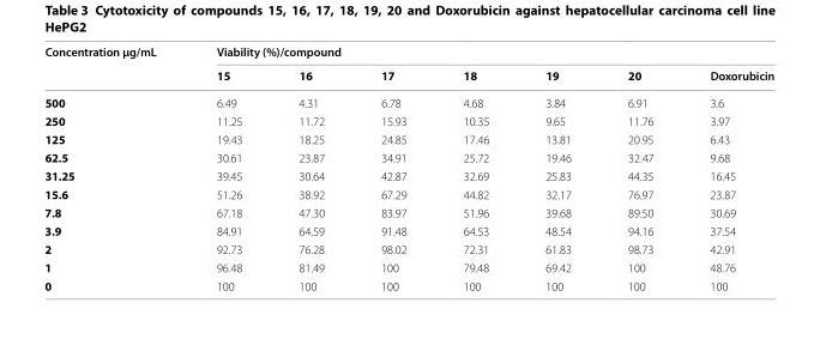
<table><thead><tr><td rowspan="2">Concentration µg/mL</td><td colspan="7">Viability (%)/compound</td></tr><tr><td>15</td><td>16</td><td>17</td><td>18</td><td>19</td><td>20</td><td>Doxorubicin</td></tr></thead><tbody><tr><td>500</td><td>6.49</td><td>4.31</td><td>6.78</td><td>4.68</td><td>3.84</td><td>6.91</td><td>3.6</td></tr><tr><td>250</td><td>11.25</td><td>11.72</td><td>15.93</td><td>10.35</td><td>9.65</td><td>11.76</td><td>3.97</td></tr><tr><td>125</td><td>19.43</td><td>18.25</td><td>24.85</td><td>17.46</td><td>13.81</td><td>20.95</td><td>6.43</td></tr><tr><td>62.5</td><td>30.61</td><td>23.87</td><td>34.91</td><td>25.72</td><td>19.46</td><td>32.47</td><td>9.68</td></tr><tr><td>31.25</td><td>39.45</td><td>30.64</td><td>42.87</td><td>32.69</td><td>25.83</td><td>44.35</td><td>16.45</td></tr><tr><td>15.6</td><td>51.26</td><td>38.92</td><td>67.29</td><td>44.82</td><td>32.17</td><td>76.97</td><td>23.87</td></tr><tr><td>7.8</td><td>67.18</td><td>47.30</td><td>83.97</td><td>51.96</td><td>39.68</td><td>89.50</td><td>30.69</td></tr><tr><td>3.9</td><td>84.91</td><td>64.59</td><td>91.48</td><td>64.53</td><td>48.54</td><td>94.16</td><td>37.54</td></tr><tr><td>2</td><td>92.73</td><td>76.28</td><td>98.02</td><td>72.31</td><td>61.83</td><td>98.73</td><td>42.91</td></tr><tr><td>1</td><td>96.48</td><td>81.49</td><td>100</td><td>79.48</td><td>69.42</td><td>100</td><td>48.76</td></tr><tr><td>0</td><td>100</td><td>100</td><td>100</td><td>100</td><td>100</td><td>100</td><td>100</td></tr></tbody></table>